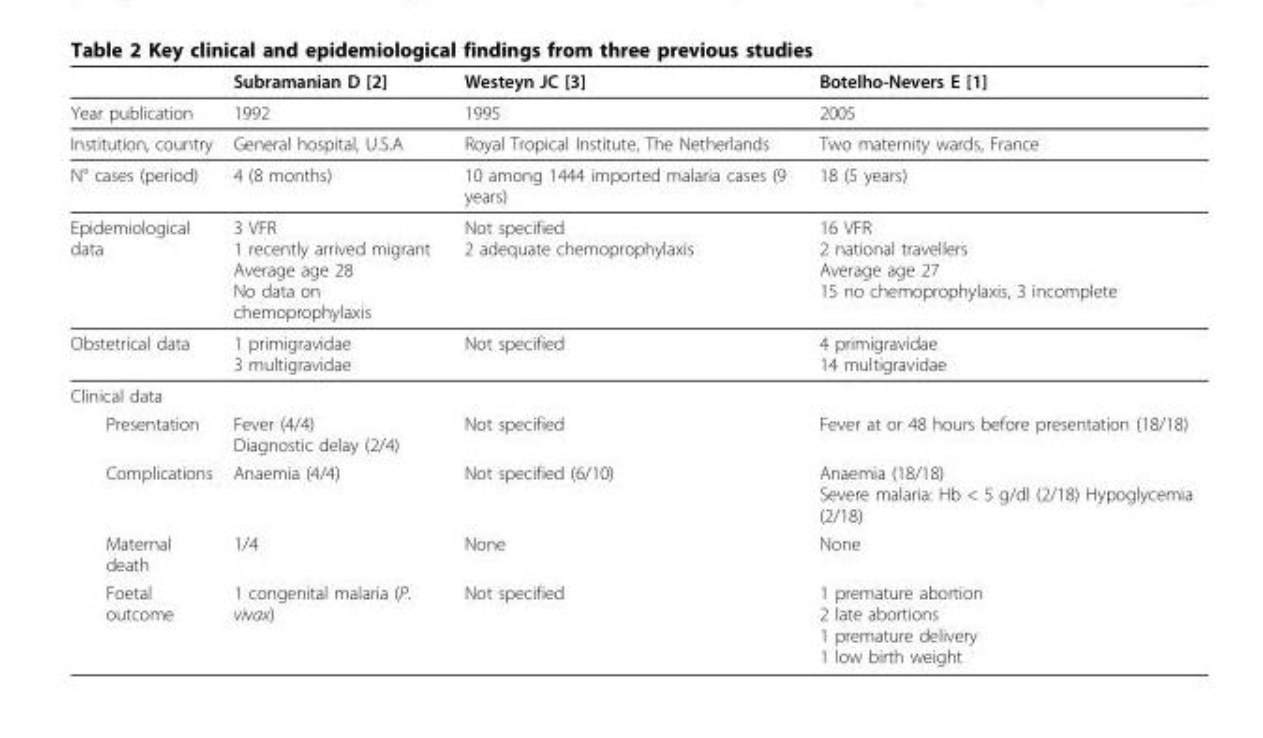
<table><thead><tr><td></td><td>Subramanian D [2]</td><td>Westeyn JC [3]</td><td>Botelho-Nevers E [1]</td></tr></thead><tbody><tr><td>Year publication</td><td>1992</td><td>1995</td><td>2005</td></tr><tr><td>Institution, country</td><td>General hospital, U.S.A</td><td>Royal Tropical Institute, The Netherlands</td><td>Two maternity wards, France</td></tr><tr><td>N° cases (period)</td><td>4 (8 months)</td><td>10 among 1444 imported malaria cases (9 years)</td><td>18 (5 years)</td></tr><tr><td>Epidemiological data</td><td>3 VFR 1 recently arrived migrant Average age 28 No data on chemoprophylaxis</td><td>Not specified 2 adequate chemoprophylaxis</td><td>16 VFR 2 national travellers Average age 27 15 no chemoprophylaxis, 3 incomplete</td></tr><tr><td>Obstetrical data</td><td>1 primigravidae 3 multigravidae</td><td>Not specified</td><td>4 primigravidae 14 multigravidae</td></tr><tr><td colspan="4">Clinical data</td></tr><tr><td>Presentation</td><td>Fever (4/4) Diagnostic delay (2/4)</td><td>Not specified</td><td>Fever at or 48 hours before presentation (18/18)</td></tr><tr><td>Complications</td><td>Anaemia (4/4)</td><td>Not specified (6/10)</td><td>Anaemia (18/18) Severe malaria: Hb &lt; 5 g/dl (2/18) Hypoglycemia (2/18)</td></tr><tr><td>Maternal death</td><td>1/4</td><td>None</td><td>None</td></tr><tr><td>Foetal outcome</td><td>1 congenital malaria (P. vivax)</td><td>Not specified</td><td>1 premature abortion 2 late abortions 1 premature delivery 1 low birth weight</td></tr></tbody></table>